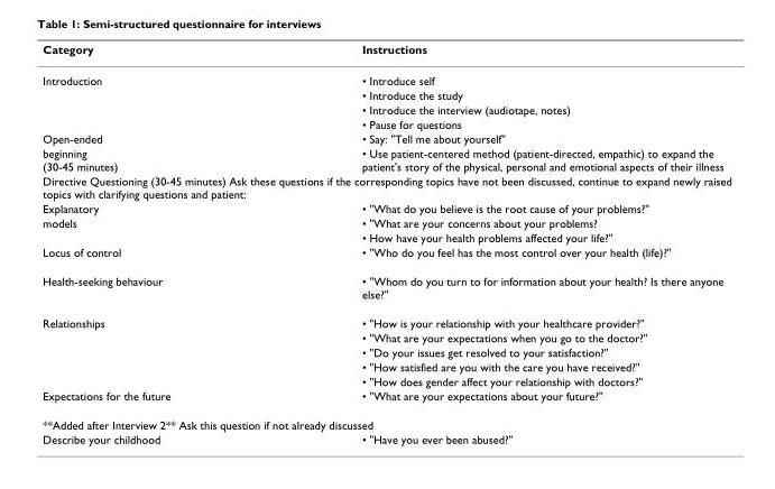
<table><thead><tr><td>Category</td><td>Instructions</td></tr></thead><tbody><tr><td rowspan="4">Introduction</td><td>• Introduce self</td></tr><tr><td>• Introduce the study</td></tr><tr><td>• Introduce the interview (audiotape, notes)</td></tr><tr><td>• Pause for questions</td></tr><tr><td>Open-ended</td><td>• Say: &quot;Tell me about yourself&quot;</td></tr><tr><td>beginning (30-45 minutes)</td><td>• Use patient-centered method (patient-directed, empathic) to expand the patient&#x27;s story of the physical, personal and emotional aspects of their illness</td></tr><tr><td colspan="2">Directive Questioning (30-45 minutes) Ask these questions if the corresponding topics have not been discussed, continue to expand newly raised topics with clarifying questions and patient:</td></tr><tr><td>Explanatory</td><td>• &quot;What do you believe is the root cause of your problems?&quot;</td></tr><tr><td rowspan="2">models</td><td>• &quot;What are your concerns about your problems?</td></tr><tr><td>• How have your health problems affected your life?&quot;</td></tr><tr><td>Locus of control</td><td>• &quot;Who do you feel has the most control over your health (life)?&quot;</td></tr><tr><td>Health-seeking behaviour</td><td>• &quot;Whom do you turn to for information about your health? Is there anyone else?&quot;</td></tr><tr><td rowspan="5">Relationships</td><td>• &quot;How is your relationship with your healthcare provider?&quot;</td></tr><tr><td>• &quot;What are your expectations when you go to the doctor?&quot;</td></tr><tr><td>• &quot;Do your issues get resolved to your satisfaction?&quot;</td></tr><tr><td>• &quot;How satisfied are you with the care you have received?&quot;</td></tr><tr><td>• &quot;How does gender affect your relationship with doctors?&quot;</td></tr><tr><td>Expectations for the future</td><td>• &quot;What are your expectations about your future?&quot;</td></tr><tr><td colspan="2">**Added after Interview 2** Ask this question if not already discussed</td></tr><tr><td>Describe your childhood</td><td>• &quot;Have you ever been abused?&quot;</td></tr></tbody></table>